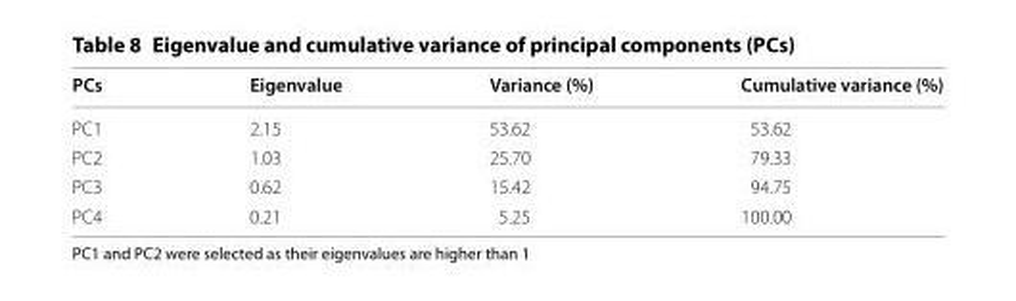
<table><thead><tr><td>PCs</td><td>Eigenvalue</td><td>Variance (%)</td><td>Cumulative variance (%)</td></tr></thead><tbody><tr><td>PC1</td><td>2.15</td><td>53.62</td><td>53.62</td></tr><tr><td>PC2</td><td>1.03</td><td>25.70</td><td>79.33</td></tr><tr><td>PC3</td><td>0.62</td><td>15.42</td><td>94.75</td></tr><tr><td>PC4</td><td>0.21</td><td>5.25</td><td>100.00</td></tr></tbody></table>